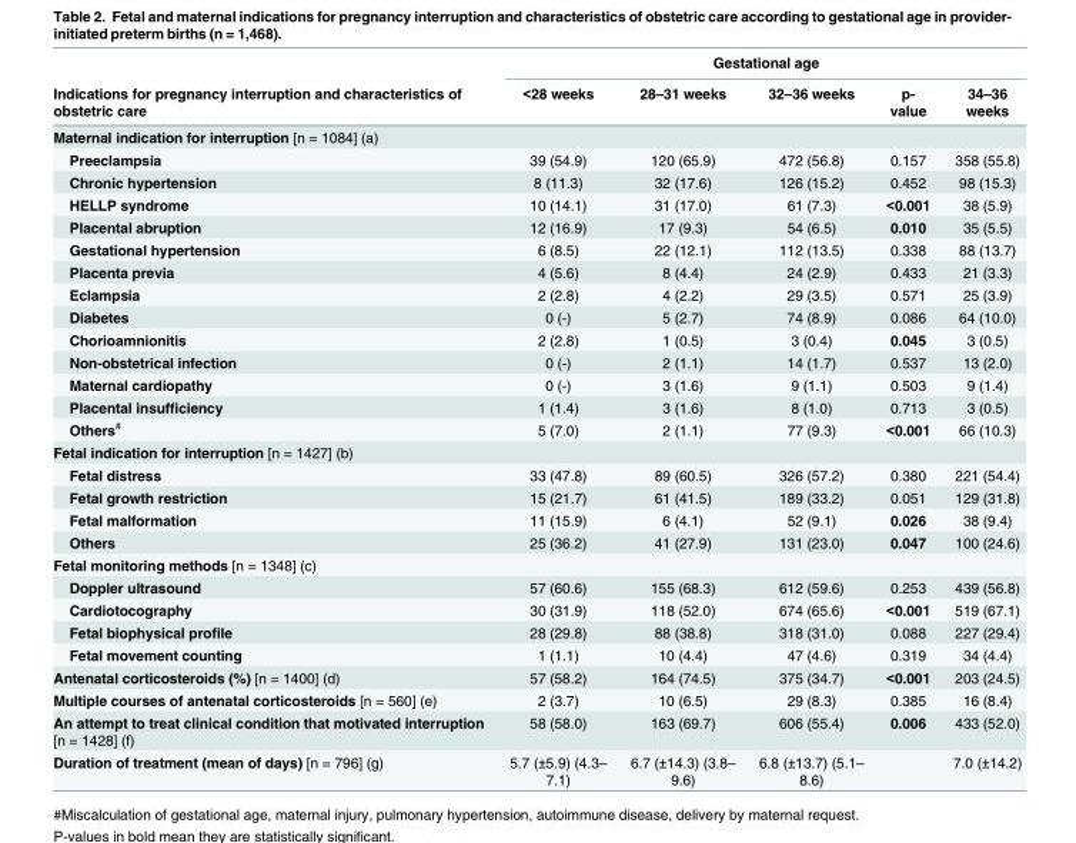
<table><thead><tr><td rowspan="2">Indications for pregnancy interruption and characteristics of obstetric care</td><td colspan="5">Gestational age</td></tr><tr><td>&lt;28 weeks</td><td>28–31 weeks</td><td>32–36 weeks</td><td>p- value</td><td>34–36 weeks</td></tr></thead><tbody><tr><td colspan="6">Maternal indication for interruption [n = 1084] (a)</td></tr><tr><td>Preeclampsia</td><td>39 (54.9)</td><td>120 (65.9)</td><td>472 (56.8)</td><td>0.157</td><td>358 (55.8)</td></tr><tr><td>Chronic hypertension</td><td>8 (11.3)</td><td>32 (17.6)</td><td>126 (15.2)</td><td>0.452</td><td>98 (15.3)</td></tr><tr><td>HELLP syndrome</td><td>10 (14.1)</td><td>31 (17.0)</td><td>61 (7.3)</td><td>&lt;0.001</td><td>38 (5.9)</td></tr><tr><td>Placental abruption</td><td>12 (16.9)</td><td>17 (9.3)</td><td>54 (6.5)</td><td>0.010</td><td>35 (5.5)</td></tr><tr><td>Gestational hypertension</td><td>6 (8.5)</td><td>22 (12.1)</td><td>112 (13.5)</td><td>0.338</td><td>88 (13.7)</td></tr><tr><td>Placenta previa</td><td>4 (5.6)</td><td>8 (4.4)</td><td>24 (2.9)</td><td>0.433</td><td>21 (3.3)</td></tr><tr><td>Eclampsia</td><td>2 (2.8)</td><td>4 (2.2)</td><td>29 (3.5)</td><td>0.571</td><td>25 (3.9)</td></tr><tr><td>Diabetes</td><td>0 (-)</td><td>5 (2.7)</td><td>74 (8.9)</td><td>0.086</td><td>64 (10.0)</td></tr><tr><td>Chorioamnionitis</td><td>2 (2.8)</td><td>1 (0.5)</td><td>3 (0.4)</td><td>0.045</td><td>3 (0.5)</td></tr><tr><td>Non-obstetrical infection</td><td>0 (-)</td><td>2 (1.1)</td><td>14 (1.7)</td><td>0.537</td><td>13 (2.0)</td></tr><tr><td>Maternal cardiopathy</td><td>0 (-)</td><td>3 (1.6)</td><td>9 (1.1)</td><td>0.503</td><td>9 (1.4)</td></tr><tr><td>Placental insufficiency</td><td>1 (1.4)</td><td>3 (1.6)</td><td>8 (1.0)</td><td>0.713</td><td>3 (0.5)</td></tr><tr><td>Others<sup>#</sup></td><td>5 (7.0)</td><td>2 (1.1)</td><td>77 (9.3)</td><td>&lt;0.001</td><td>66 (10.3)</td></tr><tr><td colspan="6">Fetal indication for interruption [n = 1427] (b)</td></tr><tr><td>Fetal distress</td><td>33 (47.8)</td><td>89 (60.5)</td><td>326 (57.2)</td><td>0.380</td><td>221 (54.4)</td></tr><tr><td>Fetal growth restriction</td><td>15 (21.7)</td><td>61 (41.5)</td><td>189 (33.2)</td><td>0.051</td><td>129 (31.8)</td></tr><tr><td>Fetal malformation</td><td>11 (15.9)</td><td>6 (4.1)</td><td>52 (9.1)</td><td>0.026</td><td>38 (9.4)</td></tr><tr><td>Others</td><td>25 (36.2)</td><td>41 (27.9)</td><td>131 (23.0)</td><td>0.047</td><td>100 (24.6)</td></tr><tr><td colspan="6">Fetal monitoring methods [n = 1348] (c)</td></tr><tr><td>Doppler ultrasound</td><td>57 (60.6)</td><td>155 (68.3)</td><td>612 (59.6)</td><td>0.253</td><td>439 (56.8)</td></tr><tr><td>Cardiotocography</td><td>30 (31.9)</td><td>118 (52.0)</td><td>674 (65.6)</td><td>&lt;0.001</td><td>519 (67.1)</td></tr><tr><td>Fetal biophysical profile</td><td>28 (29.8)</td><td>88 (38.8)</td><td>318 (31.0)</td><td>0.088</td><td>227 (29.4)</td></tr><tr><td>Fetal movement counting</td><td>1 (1.1)</td><td>10 (4.4)</td><td>47 (4.6)</td><td>0.319</td><td>34 (4.4)</td></tr><tr><td>Antenatal corticosteroids (%) [n = 1400] (d)</td><td>57 (58.2)</td><td>164 (74.5)</td><td>375 (34.7)</td><td>&lt;0.001</td><td>203 (24.5)</td></tr><tr><td>Multiple courses of antenatal corticosteroids [n = 560] (e)</td><td>2 (3.7)</td><td>10 (6.5)</td><td>29 (8.3)</td><td>0.385</td><td>16 (8.4)</td></tr><tr><td>An attempt to treat clinical condition that motivated interruption [n = 1428] (f)</td><td>58 (58.0)</td><td>163 (69.7)</td><td>606 (55.4)</td><td>0.006</td><td>433 (52.0)</td></tr><tr><td>Duration of treatment (mean of days) [n = 796] (g)</td><td>5.7 (±5.9) (4.3– 7.1)</td><td>6.7 (±14.3) (3.8– 9.6)</td><td>6.8 (±13.7) (5.1– 8.6)</td><td></td><td>7.0 (±14.2)</td></tr></tbody></table>